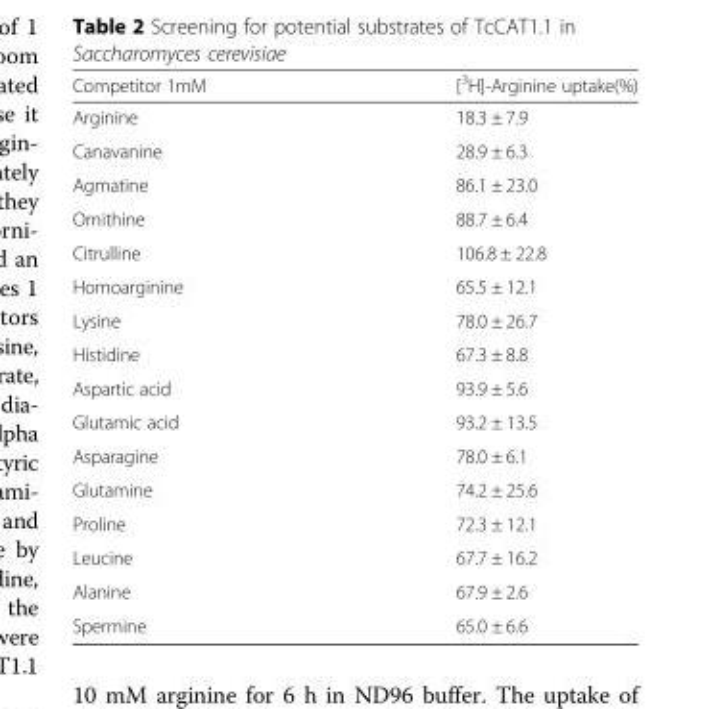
<table><thead><tr><td>Competitor 1mM</td><td>[<sup>3</sup>H]-Arginine uptake(%)</td></tr></thead><tbody><tr><td>Arginine</td><td>18.3 ± 7.9</td></tr><tr><td>Canavanine</td><td>28.9 ± 6.3</td></tr><tr><td>Agmatine</td><td>86.1 ± 23.0</td></tr><tr><td>Ornithine</td><td>88.7 ± 6.4</td></tr><tr><td>Citrulline</td><td>106.8 ± 22.8</td></tr><tr><td>Homoarginine</td><td>65.5 ± 12.1</td></tr><tr><td>Lysine</td><td>78.0 ± 26.7</td></tr><tr><td>Histidine</td><td>67.3 ± 8.8</td></tr><tr><td>Aspartic acid</td><td>93.9 ± 5.6</td></tr><tr><td>Glutamic acid</td><td>93.2 ± 13.5</td></tr><tr><td>Asparagine</td><td>78.0 ± 6.1</td></tr><tr><td>Glutamine</td><td>74.2 ± 25.6</td></tr><tr><td>Proline</td><td>72.3 ± 12.1</td></tr><tr><td>Leucine</td><td>67.7 ± 16.2</td></tr><tr><td>Alanine</td><td>67.9 ± 2.6</td></tr><tr><td>Spermine</td><td>65.0 ± 6.6</td></tr></tbody></table>